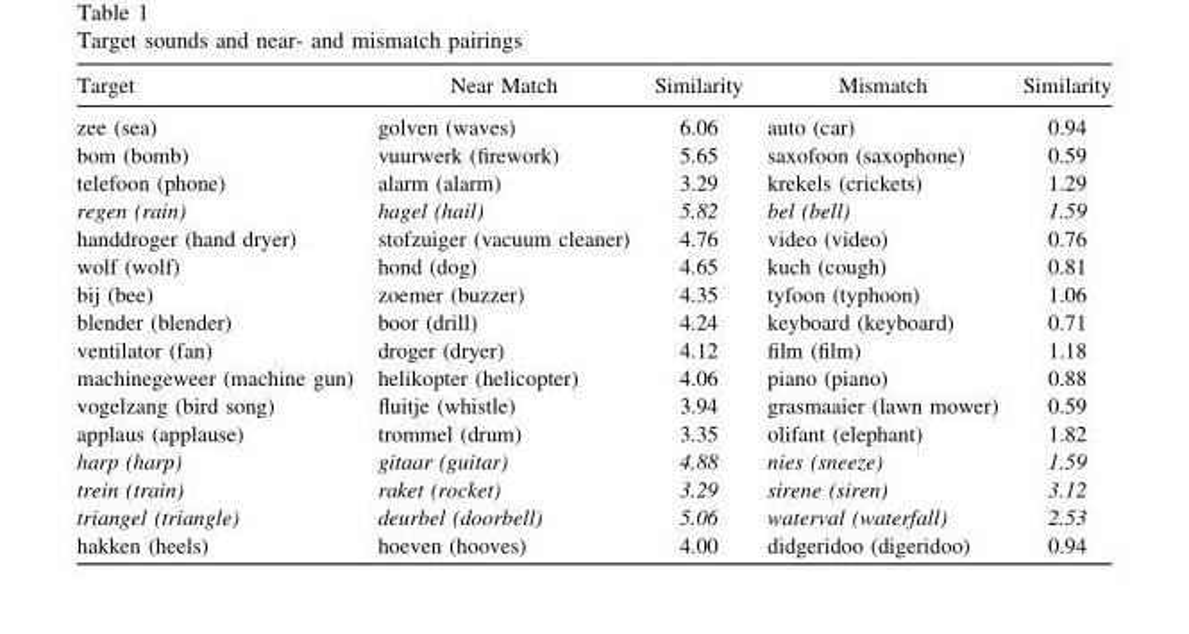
<table><thead><tr><td>Target</td><td>Near Match</td><td>Similarity</td><td>Mismatch</td><td>Similarity</td></tr></thead><tbody><tr><td>zee (sea)</td><td>golven (waves)</td><td>6.06</td><td>auto (car)</td><td>0.94</td></tr><tr><td>bom (bomb)</td><td>vuurwerk (firework)</td><td>5.65</td><td>saxofoon (saxophone)</td><td>0.59</td></tr><tr><td>telefoon (phone)</td><td>alarm (alarm)</td><td>3.29</td><td>krekels (crickets)</td><td>1.29</td></tr><tr><td>regen (rain)</td><td>hagel (hail)</td><td>5.82</td><td>bel (bell)</td><td>1.59</td></tr><tr><td>handdroger (hand dryer)</td><td>stofzuiger (vacuum cleaner)</td><td>4.76</td><td>video (video)</td><td>0.76</td></tr><tr><td>wolf (wolf)</td><td>hond (dog)</td><td>4.65</td><td>kuch (cough)</td><td>0.81</td></tr><tr><td>bij (bee)</td><td>zoemer (buzzer)</td><td>4.35</td><td>tyfoon (typhoon)</td><td>1.06</td></tr><tr><td>blender (blender)</td><td>boor (drill)</td><td>4.24</td><td>keyboard (keyboard)</td><td>0.71</td></tr><tr><td>ventilator (fan)</td><td>droger (dryer)</td><td>4.12</td><td>film (film)</td><td>1.18</td></tr><tr><td>machinegeweer (machine gun)</td><td>helikopter (helicopter)</td><td>4.06</td><td>piano (piano)</td><td>0.88</td></tr><tr><td>vogelzang (bird song)</td><td>fluitje (whistle)</td><td>3.94</td><td>grasmaaier (lawn mower)</td><td>0.59</td></tr><tr><td>applaus (applause)</td><td>trommel (drum)</td><td>3.35</td><td>olifant (elephant)</td><td>1.82</td></tr><tr><td>harp (harp)</td><td>gitaar (guitar)</td><td>4.88</td><td>nies (sneeze)</td><td>1.59</td></tr><tr><td>trein (train)</td><td>raket (rocket)</td><td>3.29</td><td>sirene (siren)</td><td>3.12</td></tr><tr><td>triangel (triangle)</td><td>deurbel (doorbell)</td><td>5.06</td><td>waterval (waterfall)</td><td>2.53</td></tr><tr><td>hakken (heels)</td><td>hoeven (hooves)</td><td>4.00</td><td>didgeridoo (digeridoo)</td><td>0.94</td></tr></tbody></table>